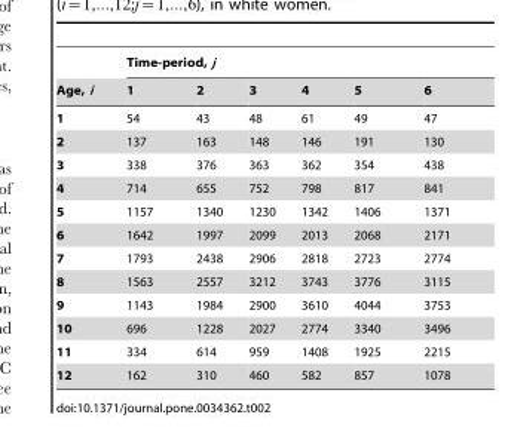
<table><thead><tr><td rowspan="2">Age, i</td><td colspan="6">Time-period, j</td></tr><tr><td>1</td><td>2</td><td>3</td><td>4</td><td>5</td><td>6</td></tr></thead><tbody><tr><td>1</td><td>54</td><td>43</td><td>48</td><td>61</td><td>49</td><td>47</td></tr><tr><td>2</td><td>137</td><td>163</td><td>148</td><td>146</td><td>191</td><td>130</td></tr><tr><td>3</td><td>338</td><td>376</td><td>363</td><td>362</td><td>354</td><td>438</td></tr><tr><td>4</td><td>714</td><td>655</td><td>752</td><td>798</td><td>817</td><td>841</td></tr><tr><td>5</td><td>1157</td><td>1340</td><td>1230</td><td>1342</td><td>1406</td><td>1371</td></tr><tr><td>6</td><td>1642</td><td>1997</td><td>2099</td><td>2013</td><td>2068</td><td>2171</td></tr><tr><td>7</td><td>1793</td><td>2438</td><td>2906</td><td>2818</td><td>2723</td><td>2774</td></tr><tr><td>8</td><td>1563</td><td>2557</td><td>3212</td><td>3743</td><td>3776</td><td>3115</td></tr><tr><td>9</td><td>1143</td><td>1984</td><td>2900</td><td>3610</td><td>4044</td><td>3753</td></tr><tr><td>10</td><td>696</td><td>1228</td><td>2027</td><td>2774</td><td>3340</td><td>3496</td></tr><tr><td>11</td><td>334</td><td>614</td><td>959</td><td>1408</td><td>1925</td><td>2215</td></tr><tr><td>12</td><td>162</td><td>310</td><td>460</td><td>582</td><td>857</td><td>1078</td></tr></tbody></table>